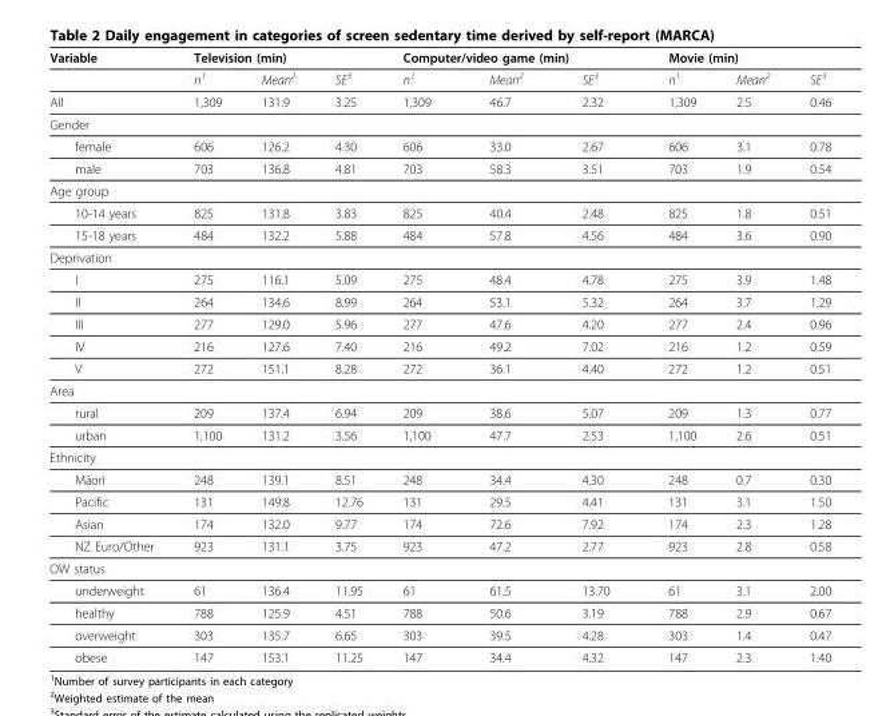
<table><thead><tr><td rowspan="2">Variable</td><td colspan="3">Television (min)</td><td colspan="3">Computer/video game (min)</td><td colspan="3">Movie (min)</td></tr><tr><td>n<sup>1</sup></td><td>Mean<sup>2</sup></td><td>SE<sup>3</sup></td><td>n<sup>1</sup></td><td>Mean<sup>2</sup></td><td>SE<sup>3</sup></td><td>n<sup>1</sup></td><td>Mean<sup>2</sup></td><td>SE<sup>3</sup></td></tr></thead><tbody><tr><td>All</td><td>1,309</td><td>131.9</td><td>3.25</td><td>1,309</td><td>46.7</td><td>2.32</td><td>1,309</td><td>2.5</td><td>0.46</td></tr><tr><td colspan="10">Gender</td></tr><tr><td>female</td><td>606</td><td>126.2</td><td>4.30</td><td>606</td><td>33.0</td><td>2.67</td><td>606</td><td>3.1</td><td>0.78</td></tr><tr><td>male</td><td>703</td><td>136.8</td><td>4.81</td><td>703</td><td>58.3</td><td>3.51</td><td>703</td><td>1.9</td><td>0.54</td></tr><tr><td colspan="10">Age group</td></tr><tr><td>10-14 years</td><td>825</td><td>131.8</td><td>3.83</td><td>825</td><td>40.4</td><td>2.48</td><td>825</td><td>1.8</td><td>0.51</td></tr><tr><td>15-18 years</td><td>484</td><td>132.2</td><td>5.88</td><td>484</td><td>57.8</td><td>4.56</td><td>484</td><td>3.6</td><td>0.90</td></tr><tr><td colspan="10">Deprivation</td></tr><tr><td>I</td><td>275</td><td>116.1</td><td>5.09</td><td>275</td><td>48.4</td><td>4.78</td><td>275</td><td>3.9</td><td>1.48</td></tr><tr><td>II</td><td>264</td><td>134.6</td><td>8.99</td><td>264</td><td>53.1</td><td>5.32</td><td>264</td><td>3.7</td><td>1.29</td></tr><tr><td>III</td><td>277</td><td>129.0</td><td>5.96</td><td>277</td><td>47.6</td><td>4.20</td><td>277</td><td>2.4</td><td>0.96</td></tr><tr><td>IV</td><td>216</td><td>127.6</td><td>7.40</td><td>216</td><td>49.2</td><td>7.02</td><td>216</td><td>1.2</td><td>0.59</td></tr><tr><td>V</td><td>272</td><td>151.1</td><td>8.28</td><td>272</td><td>36.1</td><td>4.40</td><td>272</td><td>1.2</td><td>0.51</td></tr><tr><td colspan="10">Area</td></tr><tr><td>rural</td><td>209</td><td>137.4</td><td>6.94</td><td>209</td><td>38.6</td><td>5.07</td><td>209</td><td>1.3</td><td>0.77</td></tr><tr><td>urban</td><td>1,100</td><td>131.2</td><td>3.56</td><td>1,100</td><td>47.7</td><td>2.53</td><td>1,100</td><td>2.6</td><td>0.51</td></tr><tr><td colspan="10">Ethnicity</td></tr><tr><td>Māori</td><td>248</td><td>139.1</td><td>8.51</td><td>248</td><td>34.4</td><td>4.30</td><td>248</td><td>0.7</td><td>0.30</td></tr><tr><td>Pacific</td><td>131</td><td>149.8</td><td>12.76</td><td>131</td><td>29.5</td><td>4.41</td><td>131</td><td>3.1</td><td>1.50</td></tr><tr><td>Asian</td><td>174</td><td>132.0</td><td>9.77</td><td>174</td><td>72.6</td><td>7.92</td><td>174</td><td>2.3</td><td>1.28</td></tr><tr><td>NZ Euro/Other</td><td>923</td><td>131.1</td><td>3.75</td><td>923</td><td>47.2</td><td>2.77</td><td>923</td><td>2.8</td><td>0.58</td></tr><tr><td colspan="10">OW status</td></tr><tr><td>underweight</td><td>61</td><td>136.4</td><td>11.95</td><td>61</td><td>61.5</td><td>13.70</td><td>61</td><td>3.1</td><td>2.00</td></tr><tr><td>healthy</td><td>788</td><td>125.9</td><td>4.51</td><td>788</td><td>50.6</td><td>3.19</td><td>788</td><td>2.9</td><td>0.67</td></tr><tr><td>overweight</td><td>303</td><td>135.7</td><td>6.65</td><td>303</td><td>39.5</td><td>4.28</td><td>303</td><td>1.4</td><td>0.47</td></tr><tr><td>obese</td><td>147</td><td>153.1</td><td>11.25</td><td>147</td><td>34.4</td><td>4.32</td><td>147</td><td>2.3</td><td>1.40</td></tr></tbody></table>